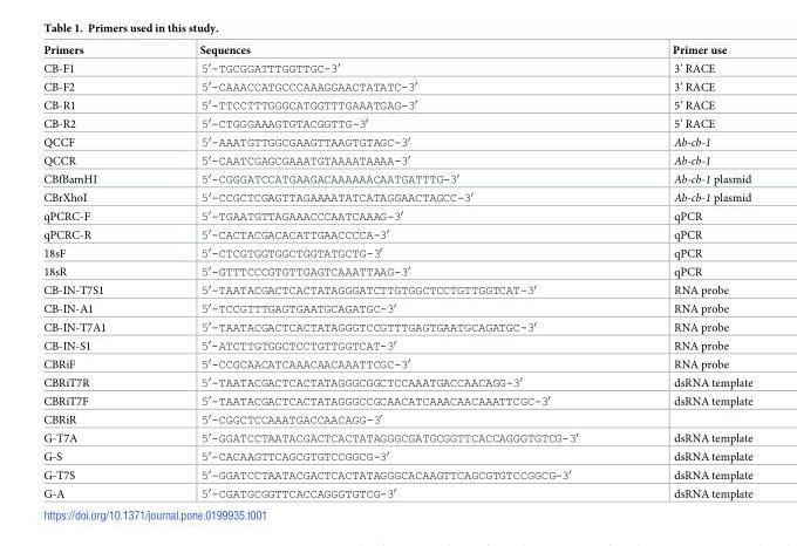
<table><thead><tr><td>Primers</td><td>Sequences</td><td>Primer use</td></tr></thead><tbody><tr><td>CB-F1</td><td>5′-TGCGGATTTGGTTGC-3′</td><td>3’ RACE</td></tr><tr><td>CB-F2</td><td>5′-CAAACCATGCCCAAAGGAACTATATC-3′</td><td>3’ RACE</td></tr><tr><td>CB-R1</td><td>5′-TTCCTTTGGGCATGGTTTGAAATGAG-3′</td><td>5’ RACE</td></tr><tr><td>CB-R2</td><td>5′-CTGGGAAAGTGTACGGTTG-3′</td><td>5’ RACE</td></tr><tr><td>QCCF</td><td>5′-AAATGTTGGCGAAGTTAAGTGTAGC-3′</td><td>Ab-cb-1</td></tr><tr><td>QCCR</td><td>5′-CAATCGAGCGAAATGTAAAATAAAA-3′</td><td>Ab-cb-1</td></tr><tr><td>CBfBamHI</td><td>5′-CGGGATCCATGAAGACAAAAAACAATGATTTG-3′</td><td>Ab-cb-1 plasmid</td></tr><tr><td>CBrXhoI</td><td>5′-CCGCTCGAGTTAGAAAATATCATAGGAACTAGCC-3′</td><td>Ab-cb-1 plasmid</td></tr><tr><td>qPCRC-F</td><td>5′-TGAATGTTAGAAACCCAATCAAAG-3′</td><td>qPCR</td></tr><tr><td>qPCRC-R</td><td>5′-CACTACGACACATTGAACCCCA-3′</td><td>qPCR</td></tr><tr><td>18sF</td><td>5′-CTCGTGGTGGCTGGTATGCTG-3′</td><td>qPCR</td></tr><tr><td>18sR</td><td>5′-GTTTCCCGTGTTGAGTCAAATTAAG-3′</td><td>qPCR</td></tr><tr><td>CB-IN-T7S1</td><td>5′-TAATACGACTCACTATAGGGATCTTGTGGCTCCTGTTGGTCAT-3′</td><td>RNA probe</td></tr><tr><td>CB-IN-A1</td><td>5′-TCCGTTTGAGTGAATGCAGATGC-3′</td><td>RNA probe</td></tr><tr><td>CB-IN-T7A1</td><td>5′-TAATACGACTCACTATAGGGTCCGTTTGAGTGAATGCAGATGC-3′</td><td>RNA probe</td></tr><tr><td>CB-IN-S1</td><td>5′-ATCTTGTGGCTCCTGTTGGTCAT-3′</td><td>RNA probe</td></tr><tr><td>CBRiF</td><td>5′-CCGCAACATCAAACAACAAATTCGC-3′</td><td>RNA probe</td></tr><tr><td>CBRiT7R</td><td>5′-TAATACGACTCACTATAGGGCGGCTCCAAATGACCAACAGG-3′</td><td>dsRNA template</td></tr><tr><td>CBRiT7F</td><td>5′-TAATACGACTCACTATAGGGCCGCAACATCAAACAACAAATTCGC-3′</td><td>dsRNA template</td></tr><tr><td>CBRiR</td><td>5′-CGGCTCCAAATGACCAACAGG-3′</td><td></td></tr><tr><td>G-T7A</td><td>5′-GGATCCTAATACGACTCACTATAGGGCGATGCGGTTCACCAGGGTGTCG-3′</td><td>dsRNA template</td></tr><tr><td>G-S</td><td>5′-CACAAGTTCAGCGTGTCCGGCG-3′</td><td>dsRNA template</td></tr><tr><td>G-T7S</td><td>5′-GGATCCTAATACGACTCACTATAGGGCACAAGTTCAGCGTGTCCGGCG-3′</td><td>dsRNA template</td></tr><tr><td>G-A</td><td>5′-CGATGCGGTTCACCAGGGTGTCG-3′</td><td>dsRNA template</td></tr></tbody></table>